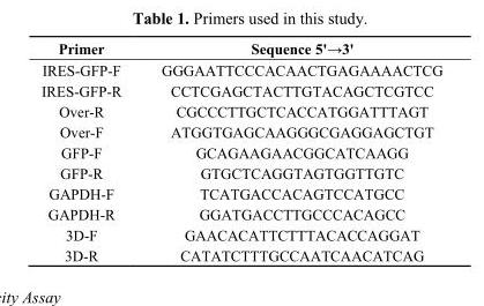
<table><thead><tr><td>Primer</td><td>Sequence 5&#x27;→3&#x27;</td></tr></thead><tbody><tr><td>IRES-GFP-F</td><td>GGGAATTCCCACAACTGAGAAAACTCG</td></tr><tr><td>IRES-GFP-R</td><td>CCTCGAGCTACTTGTACAGCTCGTCC</td></tr><tr><td>Over-R</td><td>CGCCCTTGCTCACCATGGATTTAGT</td></tr><tr><td>Over-F</td><td>ATGGTGAGCAAGGGCGAGGAGCTGT</td></tr><tr><td>GFP-F</td><td>GCAGAAGAACGGCATCAAGG</td></tr><tr><td>GFP-R</td><td>GTGCTCAGGTAGTGGTTGTC</td></tr><tr><td>GAPDH-F</td><td>TCATGACCACAGTCCATGCC</td></tr><tr><td>GAPDH-R</td><td>GGATGACCTTGCCCACAGCC</td></tr><tr><td>3D-F</td><td>GAACACATTCTTTACACCAGGAT</td></tr><tr><td>3D-R</td><td>CATATCTTTGCCAATCAACATCAG</td></tr></tbody></table>